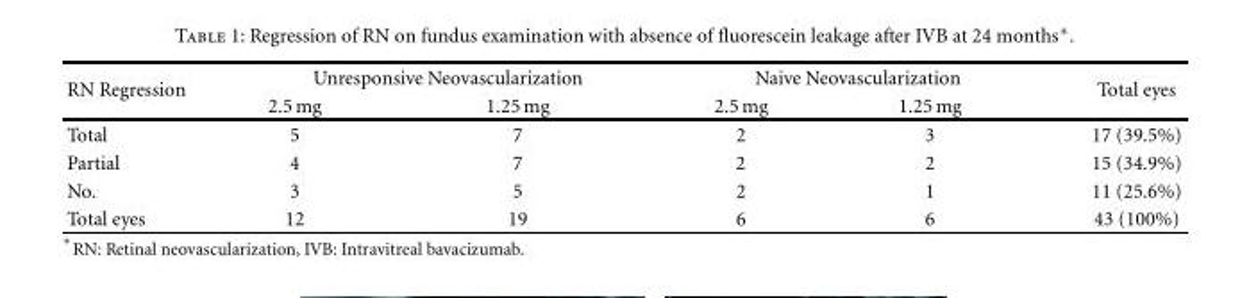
<table><thead><tr><td rowspan="2">RN Regression</td><td colspan="2">Unresponsive Neovascularization</td><td colspan="2">Naive Neovascularization</td><td rowspan="2">Total eyes</td></tr><tr><td>2.5 mg</td><td>1.25 mg</td><td>2.5 mg</td><td>1.25 mg</td></tr></thead><tbody><tr><td>Total</td><td>5</td><td>7</td><td>2</td><td>3</td><td>17 (39.5%)</td></tr><tr><td>Partial</td><td>4</td><td>7</td><td>2</td><td>2</td><td>15 (34.9%)</td></tr><tr><td>No.</td><td>3</td><td>5</td><td>2</td><td>1</td><td>11 (25.6%)</td></tr><tr><td>Total eyes</td><td>12</td><td>19</td><td>6</td><td>6</td><td>43 (100%)</td></tr></tbody></table>